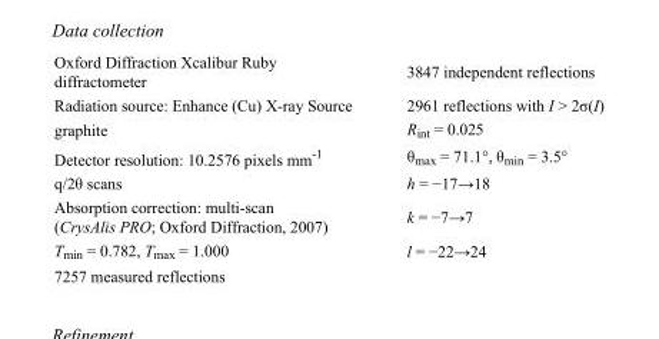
<table><tbody><tr><td>Oxford Diffraction Xcalibur Ruby diffractometer</td><td>3847 independent reflections</td></tr><tr><td>Radiation source: Enhance (Cu) X-ray Source</td><td>2961 reflections with I &gt; 2σ(I)</td></tr><tr><td>graphite</td><td>R<sub>int</sub> = 0.025</td></tr><tr><td>Detector resolution: 10.2576 pixels mm<sup>-1</sup></td><td>θ<sub>max</sub> = 71.1°, θ<sub>min</sub> = 3.5°</td></tr><tr><td>q/2θ scans</td><td>h = −17→18</td></tr><tr><td>Absorption correction: multi-scan (CrysAlis PRO; Oxford Diffraction, 2007)</td><td>k = −7→7</td></tr><tr><td>T<sub>min</sub> = 0.782, T<sub>max</sub> = 1.000</td><td>l = −22→24</td></tr><tr><td>7257 measured reflections</td><td></td></tr></tbody></table>